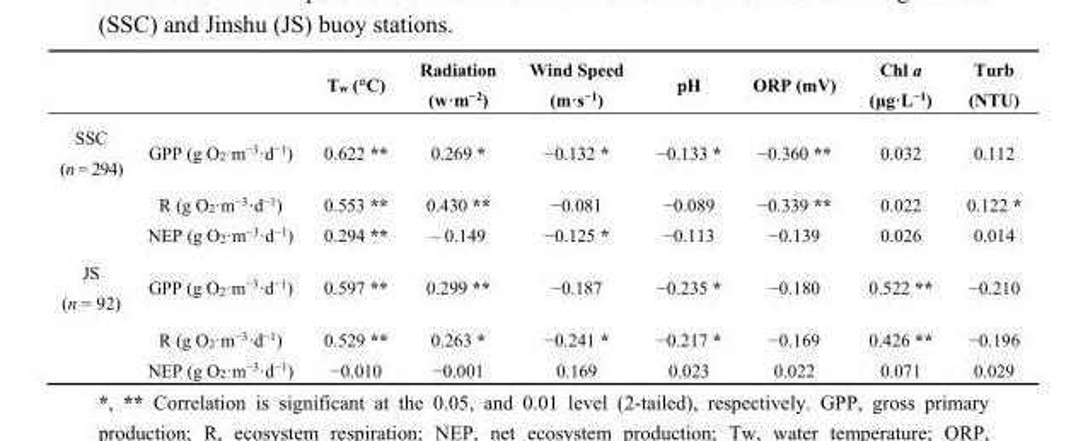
<table><thead><tr><td></td><td></td><td>T<sub>w</sub> (°C)</td><td>Radiation (w·m<sup>−2</sup>)</td><td>Wind Speed (m·s<sup>−1</sup>)</td><td>pH</td><td>ORP (mV)</td><td>Chl a (μg·L<sup>−1</sup>)</td><td>Turb (NTU)</td></tr></thead><tbody><tr><td rowspan="3">SSC (n = 294)</td><td>GPP (g O<sub>2</sub>·m<sup>−3</sup>·d<sup>−1</sup>)</td><td>0.622 **</td><td>0.269 *</td><td>−0.132 *</td><td>−0.133 *</td><td>−0.360 **</td><td>0.032</td><td>0.112</td></tr><tr><td>R (g O<sub>2</sub>·m<sup>−3</sup>·d<sup>−1</sup>)</td><td>0.553 **</td><td>0.430 **</td><td>−0.081</td><td>−0.089</td><td>−0.339 **</td><td>0.022</td><td>0.122 *</td></tr><tr><td>NEP (g O<sub>2</sub>·m<sup>−3</sup>·d<sup>−1</sup>)</td><td>0.294 **</td><td>– 0.149</td><td>−0.125 *</td><td>−0.113</td><td>−0.139</td><td>0.026</td><td>0.014</td></tr><tr><td rowspan="3">JS (n = 92)</td><td>GPP (g O<sub>2</sub>·m<sup>−3</sup>·d<sup>−1</sup>)</td><td>0.597 **</td><td>0.299 **</td><td>−0.187</td><td>−0.235 *</td><td>−0.180</td><td>0.522 **</td><td>−0.210</td></tr><tr><td>R (g O<sub>2</sub>·m<sup>−3</sup>·d<sup>−1</sup>)</td><td>0.529 **</td><td>0.263 *</td><td>−0.241 *</td><td>−0.217 *</td><td>−0.169</td><td>0.426 **</td><td>−0.196</td></tr><tr><td>NEP (g O<sub>2</sub>·m<sup>−3</sup>·d<sup>−1</sup>)</td><td>−0.010</td><td>−0.001</td><td>0.169</td><td>0.023</td><td>0.022</td><td>0.071</td><td>0.029</td></tr></tbody></table>